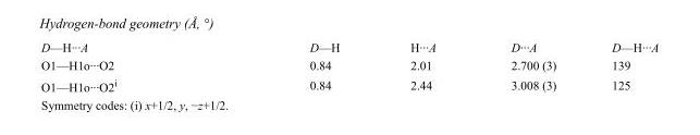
<table><tbody><tr><td>D—H···A</td><td>D—H</td><td>H···A</td><td>D···A</td><td>D—H···A</td></tr><tr><td>O1—H1o···O2</td><td>0.84</td><td>2.01</td><td>2.700 (3)</td><td>139</td></tr><tr><td>O1—H1o···O2<sup>i</sup></td><td>0.84</td><td>2.44</td><td>3.008 (3)</td><td>125</td></tr></tbody></table>